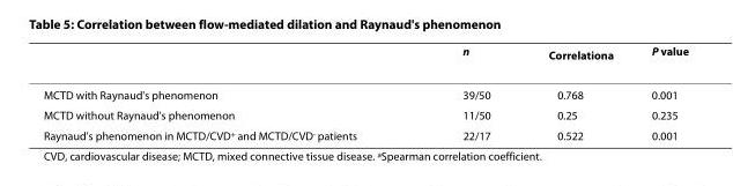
<table><thead><tr><td></td><td>n</td><td>Correlation<sup>a</sup></td><td>P value</td></tr></thead><tbody><tr><td>MCTD with Raynaud&#x27;s phenomenon</td><td>39/50</td><td>0.768</td><td>0.001</td></tr><tr><td>MCTD without Raynaud&#x27;s phenomenon</td><td>11/50</td><td>0.25</td><td>0.235</td></tr><tr><td>Raynaud&#x27;s phenomenon in MCTD/CVD<sup>+</sup> and MCTD/CVD<sup>-</sup> patients</td><td>22/17</td><td>0.522</td><td>0.001</td></tr></tbody></table>